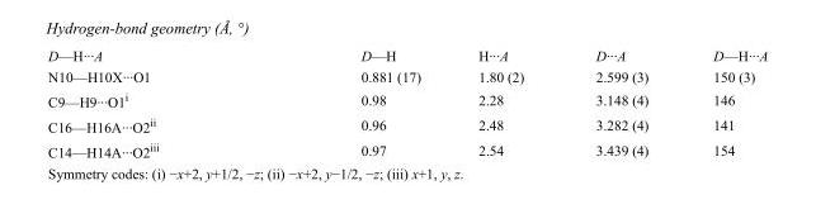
<table><tbody><tr><td>D—H···A</td><td>D—H</td><td>H···A</td><td>D···A</td><td>D—H···A</td></tr><tr><td>N10—H10X···O1</td><td>0.881 (17)</td><td>1.80 (2)</td><td>2.599 (3)</td><td>150 (3)</td></tr><tr><td>C9—H9···O1<sup>i</sup></td><td>0.98</td><td>2.28</td><td>3.148 (4)</td><td>146</td></tr><tr><td>C16—H16A···O2<sup>ii</sup></td><td>0.96</td><td>2.48</td><td>3.282 (4)</td><td>141</td></tr><tr><td>C14—H14A···O2<sup>iii</sup></td><td>0.97</td><td>2.54</td><td>3.439 (4)</td><td>154</td></tr></tbody></table>